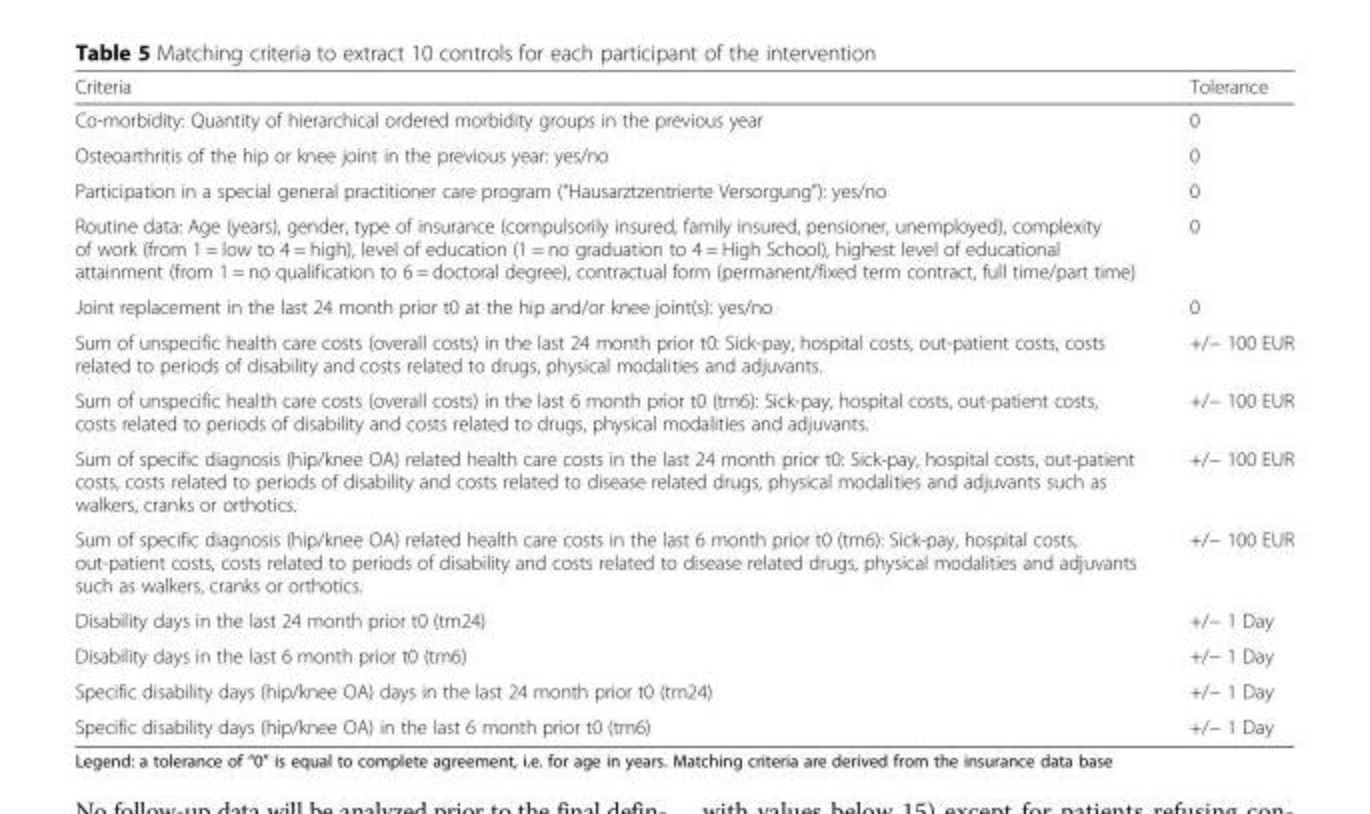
<table><thead><tr><td>Criteria</td><td>Tolerance</td></tr></thead><tbody><tr><td>Co-morbidity: Quantity of hierarchical ordered morbidity groups in the previous year</td><td>0</td></tr><tr><td>Osteoarthritis of the hip or knee joint in the previous year: yes/no</td><td>0</td></tr><tr><td>Participation in a special general practitioner care program (“Hausarztzentrierte Versorgung”): yes/no</td><td>0</td></tr><tr><td>Routine data: Age (years), gender, type of insurance (compulsorily insured, family insured, pensioner, unemployed), complexity of work (from 1 = low to 4 = high), level of education (1 = no graduation to 4 = High School), highest level of educational attainment (from 1 = no qualification to 6 = doctoral degree), contractual form (permanent/fixed term contract, full time/part time)</td><td>0</td></tr><tr><td>Joint replacement in the last 24 month prior t0 at the hip and/or knee joint(s): yes/no</td><td>0</td></tr><tr><td>Sum of unspecific health care costs (overall costs) in the last 24 month prior t0: Sick-pay, hospital costs, out-patient costs, costs related to periods of disability and costs related to drugs, physical modalities and adjuvants.</td><td>+/− 100 EUR</td></tr><tr><td>Sum of unspecific health care costs (overall costs) in the last 6 month prior t0 (tm6): Sick-pay, hospital costs, out-patient costs, costs related to periods of disability and costs related to drugs, physical modalities and adjuvants.</td><td>+/− 100 EUR</td></tr><tr><td>Sum of specific diagnosis (hip/knee OA) related health care costs in the last 24 month prior t0: Sick-pay, hospital costs, out-patient costs, costs related to periods of disability and costs related to disease related drugs, physical modalities and adjuvants such as walkers, cranks or orthotics.</td><td>+/− 100 EUR</td></tr><tr><td>Sum of specific diagnosis (hip/knee OA) related health care costs in the last 6 month prior t0 (tm6): Sick-pay, hospital costs, out-patient costs, costs related to periods of disability and costs related to disease related drugs, physical modalities and adjuvants such as walkers, cranks or orthotics.</td><td>+/− 100 EUR</td></tr><tr><td>Disability days in the last 24 month prior t0 (tm24)</td><td>+/− 1 Day</td></tr><tr><td>Disability days in the last 6 month prior t0 (tm6)</td><td>+/− 1 Day</td></tr><tr><td>Specific disability days (hip/knee OA) days in the last 24 month prior t0 (tm24)</td><td>+/− 1 Day</td></tr><tr><td>Specific disability days (hip/knee OA) in the last 6 month prior t0 (tm6)</td><td>+/− 1 Day</td></tr></tbody></table>